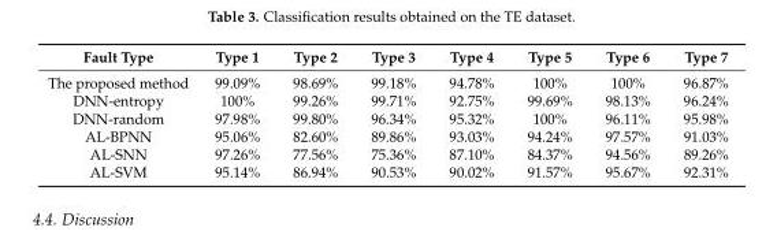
<table><thead><tr><td>Fault Type</td><td>Type 1</td><td>Type 2</td><td>Type 3</td><td>Type 4</td><td>Type 5</td><td>Type 6</td><td>Type 7</td></tr></thead><tbody><tr><td>The proposed method</td><td>99.09%</td><td>98.69%</td><td>99.18%</td><td>94.78%</td><td>100%</td><td>100%</td><td>96.87%</td></tr><tr><td>DNN-entropy</td><td>100%</td><td>99.26%</td><td>99.71%</td><td>92.75%</td><td>99.69%</td><td>98.13%</td><td>96.24%</td></tr><tr><td>DNN-random</td><td>97.98%</td><td>99.80%</td><td>96.34%</td><td>95.32%</td><td>100%</td><td>96.11%</td><td>95.98%</td></tr><tr><td>AL-BPNN</td><td>95.06%</td><td>82.60%</td><td>89.86%</td><td>93.03%</td><td>94.24%</td><td>97.57%</td><td>91.03%</td></tr><tr><td>AL-SNN</td><td>97.26%</td><td>77.56%</td><td>75.36%</td><td>87.10%</td><td>84.37%</td><td>94.56%</td><td>89.26%</td></tr><tr><td>AL-SVM</td><td>95.14%</td><td>86.94%</td><td>90.53%</td><td>90.02%</td><td>91.57%</td><td>95.67%</td><td>92.31%</td></tr></tbody></table>